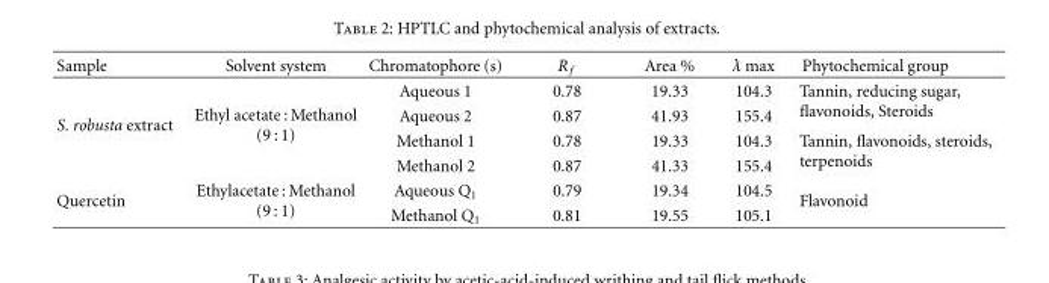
<table><thead><tr><td>Sample</td><td>Solvent system</td><td>Chromatophore (s)</td><td>R <sub>f</sub></td><td>Area %</td><td>λ max</td><td>Phytochemical group</td></tr></thead><tbody><tr><td rowspan="4">S. robusta extract</td><td rowspan="4">Ethyl acetate : Methanol (9 : 1)</td><td>Aqueous 1</td><td>0.78</td><td>19.33</td><td>104.3</td><td rowspan="2">Tannin, reducing sugar, flavonoids, Steroids</td></tr><tr><td>Aqueous 2</td><td>0.87</td><td>41.93</td><td>155.4</td></tr><tr><td>Methanol 1</td><td>0.78</td><td>19.33</td><td>104.3</td><td rowspan="2">Tannin, flavonoids, steroids, terpenoids</td></tr><tr><td>Methanol 2</td><td>0.87</td><td>41.33</td><td>155.4</td></tr><tr><td rowspan="2">Quercetin</td><td rowspan="2">Ethylacetate : Methanol (9 : 1)</td><td>Aqueous Q<sub>1</sub></td><td>0.79</td><td>19.34</td><td>104.5</td><td rowspan="2">Flavonoid</td></tr><tr><td>Methanol Q<sub>1</sub></td><td>0.81</td><td>19.55</td><td>105.1</td></tr></tbody></table>